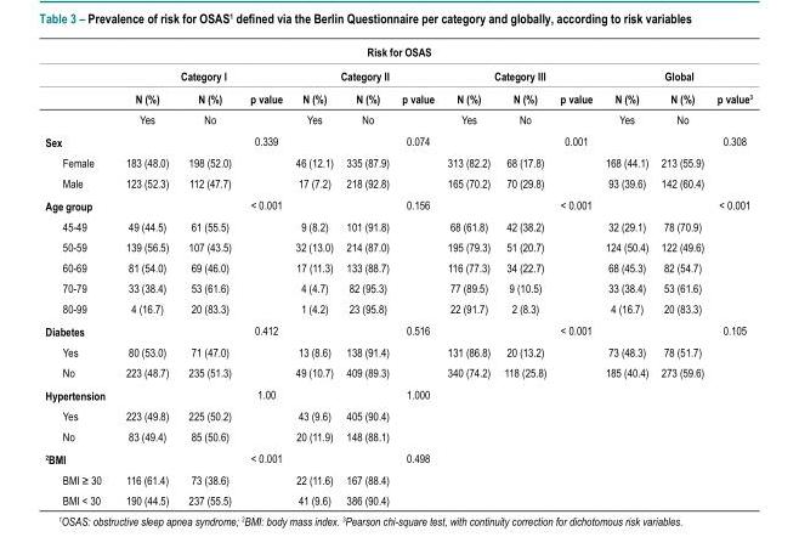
<table><thead><tr><td colspan="13">Risk for OSAS</td></tr><tr><td rowspan="2"></td><td colspan="3">Category I</td><td colspan="3">Category II</td><td colspan="3">Category III</td><td colspan="3">Global</td></tr><tr><td>N (%)</td><td>N (%)</td><td>p value</td><td>N (%)</td><td>N (%)</td><td>p value</td><td>N (%)</td><td>N (%)</td><td>p value</td><td>N (%)</td><td>N (%)</td><td>p value3</td></tr></thead><tbody><tr><td></td><td>Yes</td><td>No</td><td></td><td>Yes</td><td>No</td><td></td><td>Yes</td><td>No</td><td></td><td>Yes</td><td>No</td><td></td></tr><tr><td>Sex</td><td></td><td></td><td>0.339</td><td></td><td></td><td>0.074</td><td></td><td></td><td>0.001</td><td></td><td></td><td>0.308</td></tr><tr><td>Female</td><td>183 (48.0)</td><td>198 (52.0)</td><td></td><td>46 (12.1)</td><td>335 (87.9)</td><td></td><td>313 (82.2)</td><td>68 (17.8)</td><td></td><td>168 (44.1)</td><td>213 (55.9)</td><td></td></tr><tr><td>Male</td><td>123 (52.3)</td><td>112 (47.7)</td><td></td><td>17 (7.2)</td><td>218 (92.8)</td><td></td><td>165 (70.2)</td><td>70 (29.8)</td><td></td><td>93 (39.6)</td><td>142 (60.4)</td><td></td></tr><tr><td>Age group</td><td></td><td></td><td>&lt; 0.001</td><td></td><td></td><td>0.156</td><td></td><td></td><td>&lt; 0.001</td><td></td><td></td><td>&lt; 0.001</td></tr><tr><td>45-49</td><td>49 (44.5)</td><td>61 (55.5)</td><td></td><td>9 (8.2)</td><td>101 (91.8)</td><td></td><td>68 (61.8)</td><td>42 (38.2)</td><td></td><td>32 (29.1)</td><td>78 (70.9)</td><td></td></tr><tr><td>50-59</td><td>139 (56.5)</td><td>107 (43.5)</td><td></td><td>32 (13.0)</td><td>214 (87.0)</td><td></td><td>195 (79.3)</td><td>51 (20.7)</td><td></td><td>124 (50.4)</td><td>122 (49.6)</td><td></td></tr><tr><td>60-69</td><td>81 (54.0)</td><td>69 (46.0)</td><td></td><td>17 (11.3)</td><td>133 (88.7)</td><td></td><td>116 (77.3)</td><td>34 (22.7)</td><td></td><td>68 (45.3)</td><td>82 (54.7)</td><td></td></tr><tr><td>70-79</td><td>33 (38.4)</td><td>53 (61.6)</td><td></td><td>4 (4.7)</td><td>82 (95.3)</td><td></td><td>77 (89.5)</td><td>9 (10.5)</td><td></td><td>33 (38.4)</td><td>53 (61.6)</td><td></td></tr><tr><td>80-99</td><td>4 (16.7)</td><td>20 (83.3)</td><td></td><td>1 (4.2)</td><td>23 (95.8)</td><td></td><td>22 (91.7)</td><td>2 (8.3)</td><td></td><td>4 (16.7)</td><td>20 (83.3)</td><td></td></tr><tr><td>Diabetes</td><td></td><td></td><td>0.412</td><td></td><td></td><td>0.516</td><td></td><td></td><td>&lt; 0.001</td><td></td><td></td><td>0.105</td></tr><tr><td>Yes</td><td>80 (53.0)</td><td>71 (47.0)</td><td></td><td>13 (8.6)</td><td>138 (91.4)</td><td></td><td>131 (86.8)</td><td>20 (13.2)</td><td></td><td>73 (48.3)</td><td>78 (51.7)</td><td></td></tr><tr><td>No</td><td>223 (48.7)</td><td>235 (51.3)</td><td></td><td>49 (10.7)</td><td>409 (89.3)</td><td></td><td>340 (74.2)</td><td>118 (25.8)</td><td></td><td>185 (40.4)</td><td>273 (59.6)</td><td></td></tr><tr><td>Hypertension</td><td></td><td></td><td>1.00</td><td></td><td></td><td>1.000</td><td></td><td></td><td></td><td></td><td></td><td></td></tr><tr><td>Yes</td><td>223 (49.8)</td><td>225 (50.2)</td><td></td><td>43 (9.6)</td><td>405 (90.4)</td><td></td><td></td><td></td><td></td><td></td><td></td><td></td></tr><tr><td>No</td><td>83 (49.4)</td><td>85 (50.6)</td><td></td><td>20 (11.9)</td><td>148 (88.1)</td><td></td><td></td><td></td><td></td><td></td><td></td><td></td></tr><tr><td>2BMI</td><td></td><td></td><td>&lt; 0.001</td><td></td><td></td><td>0.498</td><td></td><td></td><td></td><td></td><td></td><td></td></tr><tr><td>BMI ≥ 30</td><td>116 (61.4)</td><td>73 (38.6)</td><td></td><td>22 (11.6)</td><td>167 (88.4)</td><td></td><td></td><td></td><td></td><td></td><td></td><td></td></tr><tr><td>BMI &lt; 30</td><td>190 (44.5)</td><td>237 (55.5)</td><td></td><td>41 (9.6)</td><td>386 (90.4)</td><td></td><td></td><td></td><td></td><td></td><td></td><td></td></tr></tbody></table>